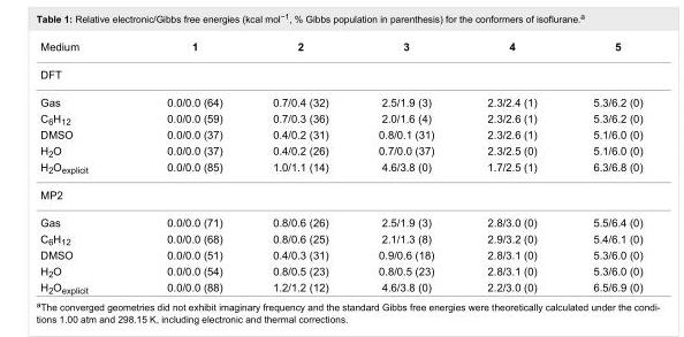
<table><tbody><tr><td>Medium</td><td>1</td><td>2</td><td>3</td><td>4</td><td>5</td></tr><tr><td colspan="6">DFT</td></tr><tr><td>Gas</td><td>0.0/0.0 (64)</td><td>0.7/0.4 (32)</td><td>2.5/1.9 (3)</td><td>2.3/2.4 (1)</td><td>5.3/6.2 (0)</td></tr><tr><td>C<sub>6</sub>H<sub>12</sub></td><td>0.0/0.0 (59)</td><td>0.7/0.3 (36)</td><td>2.0/1.6 (4)</td><td>2.3/2.6 (1)</td><td>5.3/6.2 (0)</td></tr><tr><td>DMSO</td><td>0.0/0.0 (37)</td><td>0.4/0.2 (31)</td><td>0.8/0.1 (31)</td><td>2.3/2.6 (1)</td><td>5.1/6.0 (0)</td></tr><tr><td>H<sub>2</sub>O</td><td>0.0/0.0 (37)</td><td>0.4/0.2 (26)</td><td>0.7/0.0 (37)</td><td>2.3/2.5 (0)</td><td>5.1/6.0 (0)</td></tr><tr><td>H<sub>2</sub>O<sub>explicit</sub></td><td>0.0/0.0 (85)</td><td>1.0/1.1 (14)</td><td>4.6/3.8 (0)</td><td>1.7/2.5 (1)</td><td>6.3/6.8 (0)</td></tr><tr><td colspan="6">MP2</td></tr><tr><td>Gas</td><td>0.0/0.0 (71)</td><td>0.8/0.6 (26)</td><td>2.5/1.9 (3)</td><td>2.8/3.0 (0)</td><td>5.5/6.4 (0)</td></tr><tr><td>C<sub>6</sub>H<sub>12</sub></td><td>0.0/0.0 (68)</td><td>0.8/0.6 (25)</td><td>2.1/1.3 (8)</td><td>2.9/3.2 (0)</td><td>5.4/6.1 (0)</td></tr><tr><td>DMSO</td><td>0.0/0.0 (51)</td><td>0.4/0.3 (31)</td><td>0.9/0.6 (18)</td><td>2.8/3.1 (0)</td><td>5.3/6.0 (0)</td></tr><tr><td>H<sub>2</sub>O</td><td>0.0/0.0 (54)</td><td>0.8/0.5 (23)</td><td>0.8/0.5 (23)</td><td>2.8/3.1 (0)</td><td>5.3/6.0 (0)</td></tr><tr><td>H<sub>2</sub>O<sub>explicit</sub></td><td>0.0/0.0 (88)</td><td>1.2/1.2 (12)</td><td>4.6/3.8 (0)</td><td>2.2/3.0 (0)</td><td>6.5/6.9 (0)</td></tr></tbody></table>